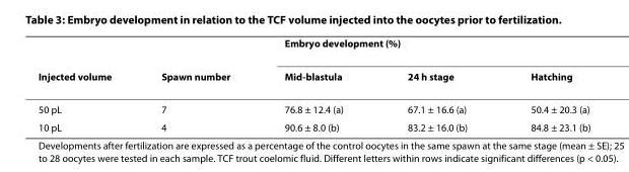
<table><thead><tr><td rowspan="2">Injected volume</td><td rowspan="2">Spawn number</td><td colspan="3">Embryo development (%)</td></tr><tr><td>Mid-blastula</td><td>24 h stage</td><td>Hatching</td></tr></thead><tbody><tr><td>50 pL</td><td>7</td><td>76.8 ± 12.4 (a)</td><td>67.1 ± 16.6 (a)</td><td>50.4 ± 20.3 (a)</td></tr><tr><td>10 pL</td><td>4</td><td>90.6 ± 8.0 (b)</td><td>83.2 ± 16.0 (b)</td><td>84.8 ± 23.1 (b)</td></tr></tbody></table>